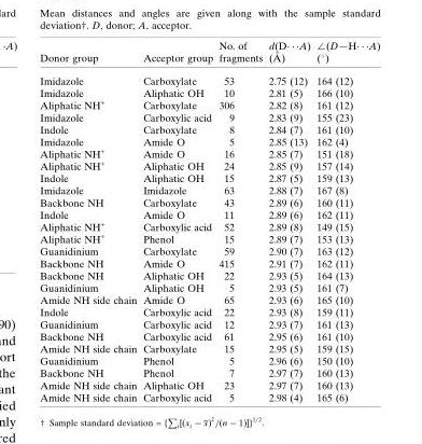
<table><thead><tr><td>Donor group</td><td>Acceptor group</td><td>No. of fragments</td><td>d(D� � �A) (A˚ )</td><td>/(D—H� � �A) (�)</td></tr></thead><tbody><tr><td>Imidazole</td><td>Carboxylate</td><td>53</td><td>2.75 (12)</td><td>164 (12)</td></tr><tr><td>Imidazole</td><td>Aliphatic OH</td><td>10</td><td>2.81 (5)</td><td>166 (10)</td></tr><tr><td>Aliphatic NH<sup>+</sup></td><td>Carboxylate</td><td>306</td><td>2.82 (8)</td><td>161 (12)</td></tr><tr><td>Imidazole</td><td>Carboxylic acid</td><td>9</td><td>2.83 (9)</td><td>155 (23)</td></tr><tr><td>Indole</td><td>Carboxylate</td><td>8</td><td>2.84 (7)</td><td>161 (10)</td></tr><tr><td>Imidazole</td><td>Amide O</td><td>5</td><td>2.85 (13)</td><td>162 (4)</td></tr><tr><td>Aliphatic NH<sup>+</sup></td><td>Amide O</td><td>16</td><td>2.85 (7)</td><td>151 (18)</td></tr><tr><td>Aliphatic NH<sup>+</sup></td><td>Aliphatic OH</td><td>24</td><td>2.85 (9)</td><td>157 (14)</td></tr><tr><td>Indole</td><td>Aliphatic OH</td><td>15</td><td>2.87 (5)</td><td>159 (13)</td></tr><tr><td>Imidazole</td><td>Imidazole</td><td>63</td><td>2.88 (7)</td><td>167 (8)</td></tr><tr><td>Backbone NH</td><td>Carboxylate</td><td>43</td><td>2.89 (6)</td><td>160 (11)</td></tr><tr><td>Indole</td><td>Amide O</td><td>11</td><td>2.89 (6)</td><td>162 (11)</td></tr><tr><td>Aliphatic NH<sup>+</sup></td><td>Carboxylic acid</td><td>52</td><td>2.89 (8)</td><td>149 (15)</td></tr><tr><td>Aliphatic NH<sup>+</sup></td><td>Phenol</td><td>15</td><td>2.89 (7)</td><td>153 (13)</td></tr><tr><td>Guanidinium</td><td>Carboxylate</td><td>59</td><td>2.90 (7)</td><td>163 (12)</td></tr><tr><td>Backbone NH</td><td>Amide O</td><td>415</td><td>2.91 (7)</td><td>162 (11)</td></tr><tr><td>Backbone NH</td><td>Aliphatic OH</td><td>22</td><td>2.93 (5)</td><td>164 (13)</td></tr><tr><td>Guanidinium</td><td>Aliphatic OH</td><td>5</td><td>2.93 (5)</td><td>161 (7)</td></tr><tr><td>Amide NH side chain</td><td>Amide O</td><td>65</td><td>2.93 (6)</td><td>165 (10)</td></tr><tr><td>Indole</td><td>Carboxylic acid</td><td>22</td><td>2.93 (8)</td><td>159 (11)</td></tr><tr><td>Guanidinium</td><td>Carboxylic acid</td><td>12</td><td>2.93 (7)</td><td>161 (13)</td></tr><tr><td>Backbone NH</td><td>Carboxylic acid</td><td>61</td><td>2.95 (6)</td><td>161 (10)</td></tr><tr><td>Amide NH side chain</td><td>Carboxylate</td><td>15</td><td>2.95 (5)</td><td>159 (15)</td></tr><tr><td>Guanidinium</td><td>Phenol</td><td>5</td><td>2.96 (6)</td><td>150 (10)</td></tr><tr><td>Backbone NH</td><td>Phenol</td><td>7</td><td>2.97 (7)</td><td>160 (13)</td></tr><tr><td>Amide NH side chain</td><td>Aliphatic OH</td><td>23</td><td>2.97 (7)</td><td>160 (13)</td></tr><tr><td>Amide NH side chain</td><td>Carboxylic acid</td><td>5</td><td>2.98 (4)</td><td>165 (6)</td></tr></tbody></table>